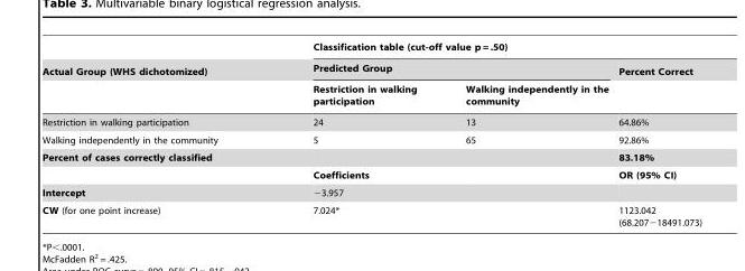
<table><thead><tr><td rowspan="3">Actual Group (WHS dichotomized)</td><td colspan="3">Classification table (cut-off value p = .50)</td></tr><tr><td colspan="2">Predicted Group</td><td rowspan="2">Percent Correct</td></tr><tr><td>Restriction in walking participation</td><td>Walking independently in the community</td></tr></thead><tbody><tr><td>Restriction in walking participation</td><td>24</td><td>13</td><td>64.86%</td></tr><tr><td>Walking independently in the community</td><td>5</td><td>65</td><td>92.86%</td></tr><tr><td rowspan="2">Percent of cases correctly classified</td><td></td><td></td><td>83.18%</td></tr><tr><td>Coefficients</td><td></td><td>OR (95% CI)</td></tr><tr><td>Intercept</td><td>−3.957</td><td></td><td></td></tr><tr><td>CW (for one point increase)</td><td>7.024*</td><td></td><td>1123.042 (68.207−18491.073)</td></tr></tbody></table>